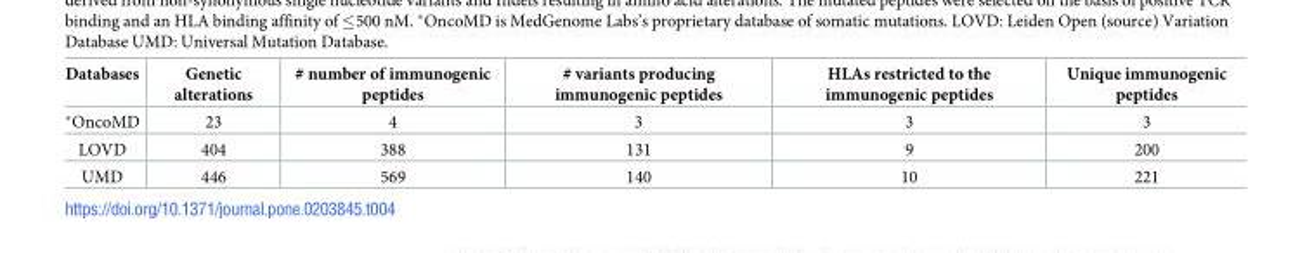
<table><thead><tr><td>Databases</td><td>Genetic alterations</td><td># number of immunogenic peptides</td><td># variants producing immunogenic peptides</td><td>HLAs restricted to the immunogenic peptides</td><td>Unique immunogenic peptides</td></tr></thead><tbody><tr><td>*OncoMD</td><td>23</td><td>4</td><td>3</td><td>3</td><td>3</td></tr><tr><td>LOVD</td><td>404</td><td>388</td><td>131</td><td>9</td><td>200</td></tr><tr><td>UMD</td><td>446</td><td>569</td><td>140</td><td>10</td><td>221</td></tr></tbody></table>